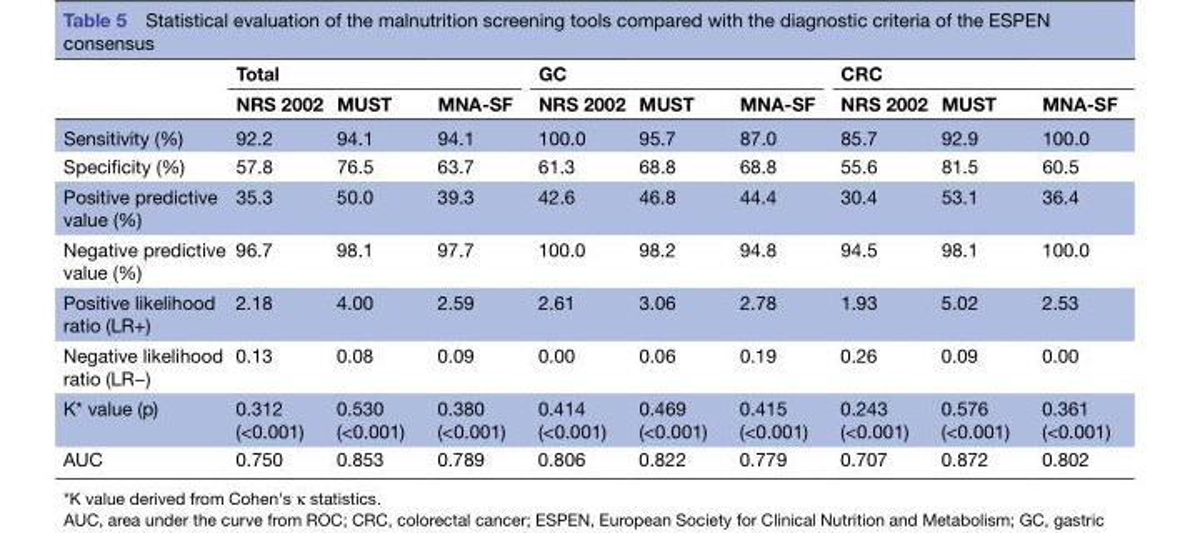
<table><thead><tr><td rowspan="2"></td><td colspan="3">Total</td><td colspan="3">GC</td><td colspan="3">CRC</td></tr><tr><td>NRS 2002</td><td>MUST</td><td>MNA-SF</td><td>NRS 2002</td><td>MUST</td><td>MNA-SF</td><td>NRS 2002</td><td>MUST</td><td>MNA-SF</td></tr></thead><tbody><tr><td>Sensitivity (%)</td><td>92.2</td><td>94.1</td><td>94.1</td><td>100.0</td><td>95.7</td><td>87.0</td><td>85.7</td><td>92.9</td><td>100.0</td></tr><tr><td>Specificity (%)</td><td>57.8</td><td>76.5</td><td>63.7</td><td>61.3</td><td>68.8</td><td>68.8</td><td>55.6</td><td>81.5</td><td>60.5</td></tr><tr><td>Positive predictive value (%)</td><td>35.3</td><td>50.0</td><td>39.3</td><td>42.6</td><td>46.8</td><td>44.4</td><td>30.4</td><td>53.1</td><td>36.4</td></tr><tr><td>Negative predictive value (%)</td><td>96.7</td><td>98.1</td><td>97.7</td><td>100.0</td><td>98.2</td><td>94.8</td><td>94.5</td><td>98.1</td><td>100.0</td></tr><tr><td>Positive likelihood ratio (LR+)</td><td>2.18</td><td>4.00</td><td>2.59</td><td>2.61</td><td>3.06</td><td>2.78</td><td>1.93</td><td>5.02</td><td>2.53</td></tr><tr><td>Negative likelihood ratio (LR−)</td><td>0.13</td><td>0.08</td><td>0.09</td><td>0.00</td><td>0.06</td><td>0.19</td><td>0.26</td><td>0.09</td><td>0.00</td></tr><tr><td>K* value (p)</td><td>0.312 (&lt;0.001)</td><td>0.530 (&lt;0.001)</td><td>0.380 (&lt;0.001)</td><td>0.414 (&lt;0.001)</td><td>0.469 (&lt;0.001)</td><td>0.415 (&lt;0.001)</td><td>0.243 (&lt;0.001)</td><td>0.576 (&lt;0.001)</td><td>0.361 (&lt;0.001)</td></tr><tr><td>AUC</td><td>0.750</td><td>0.853</td><td>0.789</td><td>0.806</td><td>0.822</td><td>0.779</td><td>0.707</td><td>0.872</td><td>0.802</td></tr></tbody></table>